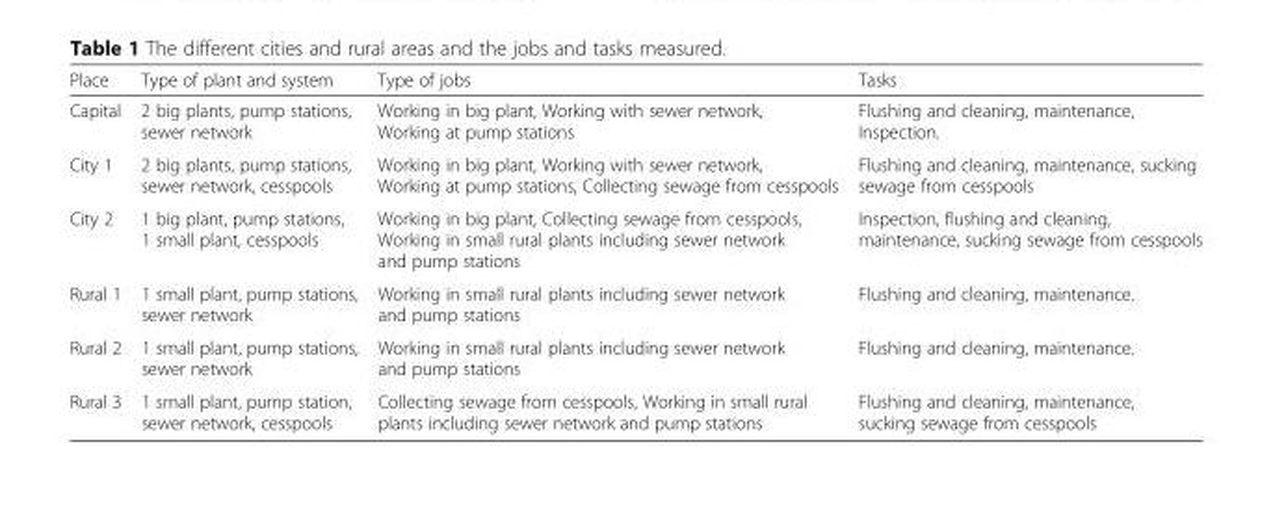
<table><thead><tr><td>Place</td><td>Type of plant and system</td><td>Type of jobs</td><td>Tasks</td></tr></thead><tbody><tr><td>Capital</td><td>2 big plants, pump stations, sewer network</td><td>Working in big plant, Working with sewer network, Working at pump stations</td><td>Flushing and cleaning, maintenance, Inspection.</td></tr><tr><td>City 1</td><td>2 big plants, pump stations, sewer network, cesspools</td><td>Working in big plant, Working with sewer network, Working at pump stations, Collecting sewage from cesspools</td><td>Flushing and cleaning, maintenance, sucking sewage from cesspools</td></tr><tr><td>City 2</td><td>1 big plant, pump stations, 1 small plant, cesspools</td><td>Working in big plant, Collecting sewage from cesspools, Working in small rural plants including sewer network and pump stations</td><td>Inspection, flushing and cleaning, maintenance, sucking sewage from cesspools</td></tr><tr><td>Rural 1</td><td>1 small plant, pump stations, sewer network</td><td>Working in small rural plants including sewer network and pump stations</td><td>Flushing and cleaning, maintenance.</td></tr><tr><td>Rural 2</td><td>1 small plant, pump stations, sewer network</td><td>Working in small rural plants including sewer network and pump stations</td><td>Flushing and cleaning, maintenance.</td></tr><tr><td>Rural 3</td><td>1 small plant, pump station, sewer network, cesspools</td><td>Collecting sewage from cesspools, Working in small rural plants including sewer network and pump stations</td><td>Flushing and cleaning, maintenance, sucking sewage from cesspools</td></tr></tbody></table>